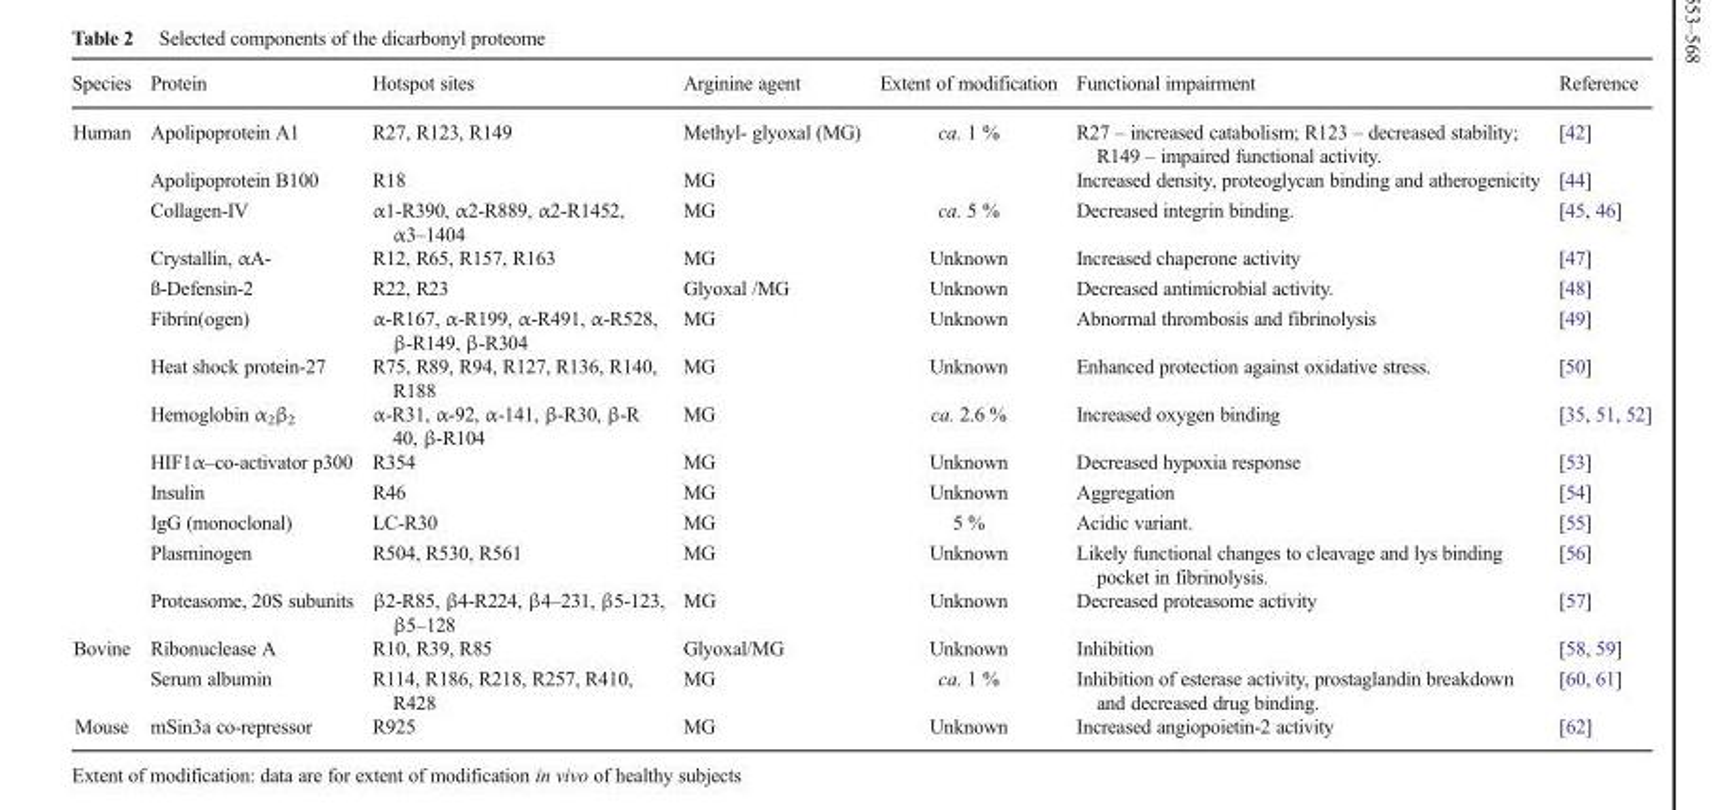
<table><thead><tr><td>Species</td><td>Protein</td><td>Hotspot sites</td><td>Arginine agent</td><td>Extent of modification</td><td>Functional impairment</td><td>Reference</td></tr></thead><tbody><tr><td rowspan="13">Human</td><td>Apolipoprotein A1</td><td>R27, R123, R149</td><td>Methyl- glyoxal (MG)</td><td>ca. 1 %</td><td>R27 – increased catabolism; R123 – decreased stability; R149 – impaired functional activity.</td><td>[42]</td></tr><tr><td>Apolipoprotein B100</td><td>R18</td><td>MG</td><td></td><td>Increased density, proteoglycan binding and atherogenicity</td><td>[44]</td></tr><tr><td>Collagen-IV</td><td>α1-R390, α2-R889, α2-R1452, α3–1404</td><td>MG</td><td>ca. 5 %</td><td>Decreased integrin binding.</td><td>[45, 46]</td></tr><tr><td>Crystallin, αA-</td><td>R12, R65, R157, R163</td><td>MG</td><td>Unknown</td><td>Increased chaperone activity</td><td>[47]</td></tr><tr><td>ß-Defensin-2</td><td>R22, R23</td><td>Glyoxal /MG</td><td>Unknown</td><td>Decreased antimicrobial activity.</td><td>[48]</td></tr><tr><td>Fibrin(ogen)</td><td>α-R167, α-R199, α-R491, α-R528, β-R149, β-R304</td><td>MG</td><td>Unknown</td><td>Abnormal thrombosis and fibrinolysis</td><td>[49]</td></tr><tr><td>Heat shock protein-27</td><td>R75, R89, R94, R127, R136, R140, R188</td><td>MG</td><td>Unknown</td><td>Enhanced protection against oxidative stress.</td><td>[50]</td></tr><tr><td>Hemoglobin α<sub>2</sub>β<sub>2</sub></td><td>α-R31, α-92, α-141, β-R30, β-R 40, β-R104</td><td>MG</td><td>ca. 2.6 %</td><td>Increased oxygen binding</td><td>[35, 51, 52]</td></tr><tr><td>HIF1α–co-activator p300</td><td>R354</td><td>MG</td><td>Unknown</td><td>Decreased hypoxia response</td><td>[53]</td></tr><tr><td>Insulin</td><td>R46</td><td>MG</td><td>Unknown</td><td>Aggregation</td><td>[54]</td></tr><tr><td>IgG (monoclonal)</td><td>LC-R30</td><td>MG</td><td>5 %</td><td>Acidic variant.</td><td>[55]</td></tr><tr><td>Plasminogen</td><td>R504, R530, R561</td><td>MG</td><td>Unknown</td><td>Likely functional changes to cleavage and lys binding pocket in fibrinolysis.</td><td>[56]</td></tr><tr><td>Proteasome, 20S subunits</td><td>β2-R85, β4-R224, β4–231, β5-123, β5–128</td><td>MG</td><td>Unknown</td><td>Decreased proteasome activity</td><td>[57]</td></tr><tr><td rowspan="2">Bovine</td><td>Ribonuclease A</td><td>R10, R39, R85</td><td>Glyoxal/MG</td><td>Unknown</td><td>Inhibition</td><td>[58, 59]</td></tr><tr><td>Serum albumin</td><td>R114, R186, R218, R257, R410, R428</td><td>MG</td><td>ca. 1 %</td><td>Inhibition of esterase activity, prostaglandin breakdown and decreased drug binding.</td><td>[60, 61]</td></tr><tr><td>Mouse</td><td>mSin3a co-repressor</td><td>R925</td><td>MG</td><td>Unknown</td><td>Increased angiopoietin-2 activity</td><td>[62]</td></tr></tbody></table>